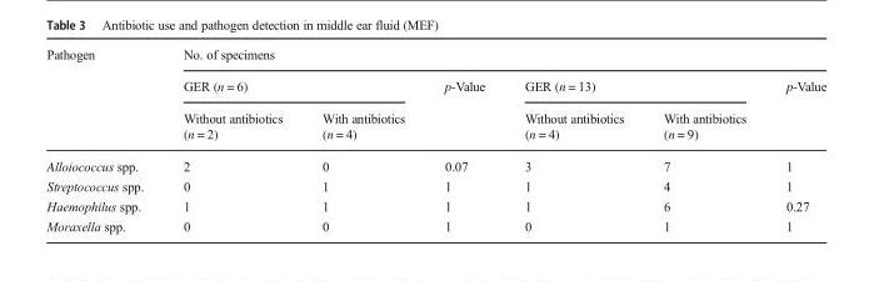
<table><thead><tr><td rowspan="3">Pathogen</td><td colspan="6">No. of specimens</td></tr><tr><td colspan="2">GER (n = 6)</td><td rowspan="2">p-Value</td><td colspan="2">GER (n = 13)</td><td rowspan="2">p-Value</td></tr><tr><td>Without antibiotics (n = 2)</td><td>With antibiotics (n = 4)</td><td>Without antibiotics (n = 4)</td><td>With antibiotics (n = 9)</td></tr></thead><tbody><tr><td>Alloiococcus spp.</td><td>2</td><td>0</td><td>0.07</td><td>3</td><td>7</td><td>1</td></tr><tr><td>Streptococcus spp.</td><td>0</td><td>1</td><td>1</td><td>1</td><td>4</td><td>1</td></tr><tr><td>Haemophilus spp.</td><td>1</td><td>1</td><td>1</td><td>1</td><td>6</td><td>0.27</td></tr><tr><td>Moraxella spp.</td><td>0</td><td>0</td><td>1</td><td>0</td><td>1</td><td>1</td></tr></tbody></table>